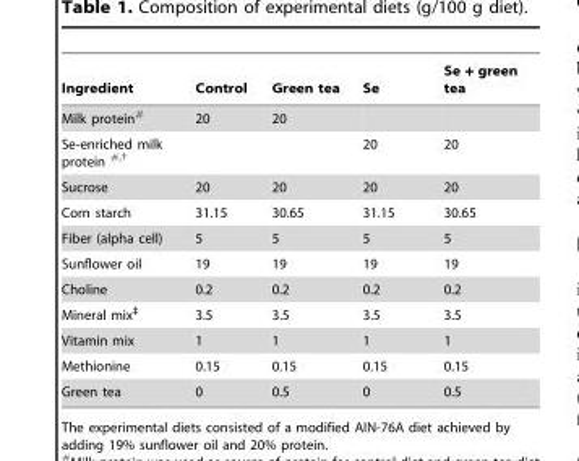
<table><thead><tr><td>Ingredient</td><td>Control</td><td>Green tea</td><td>Se</td><td>Se + green tea</td></tr></thead><tbody><tr><td>Milk protein#</td><td>20</td><td>20</td><td></td><td></td></tr><tr><td>Se-enriched milk protein #,†</td><td></td><td></td><td>20</td><td>20</td></tr><tr><td>Sucrose</td><td>20</td><td>20</td><td>20</td><td>20</td></tr><tr><td>Corn starch</td><td>31.15</td><td>30.65</td><td>31.15</td><td>30.65</td></tr><tr><td>Fiber (alpha cell)</td><td>5</td><td>5</td><td>5</td><td>5</td></tr><tr><td>Sunflower oil</td><td>19</td><td>19</td><td>19</td><td>19</td></tr><tr><td>Choline</td><td>0.2</td><td>0.2</td><td>0.2</td><td>0.2</td></tr><tr><td>Mineral mix‡</td><td>3.5</td><td>3.5</td><td>3.5</td><td>3.5</td></tr><tr><td>Vitamin mix</td><td>1</td><td>1</td><td>1</td><td>1</td></tr><tr><td>Methionine</td><td>0.15</td><td>0.15</td><td>0.15</td><td>0.15</td></tr><tr><td>Green tea</td><td>0</td><td>0.5</td><td>0</td><td>0.5</td></tr></tbody></table>